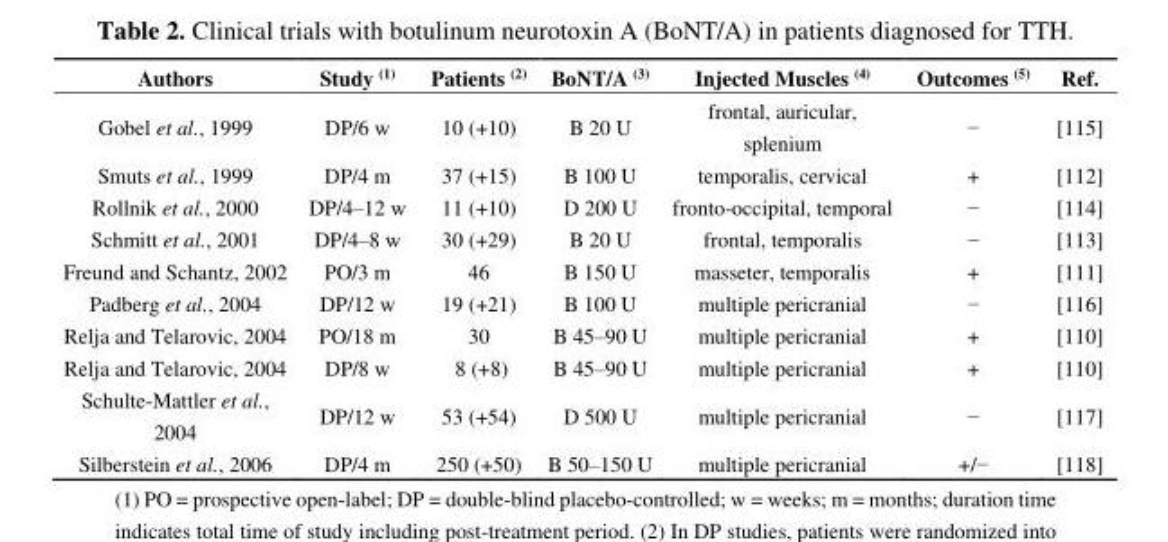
<table><thead><tr><td>Authors</td><td>Study <sup>(1)</sup></td><td>Patients <sup>(2)</sup></td><td>BoNT/A <sup>(3)</sup></td><td>Injected Muscles <sup>(4)</sup></td><td>Outcomes <sup>(5)</sup></td><td>Ref.</td></tr></thead><tbody><tr><td>Gobel et al., 1999</td><td>DP/6 w</td><td>10 (+10)</td><td>B 20 U</td><td>frontal, auricular, splenium</td><td>−</td><td>[115]</td></tr><tr><td>Smuts et al., 1999</td><td>DP/4 m</td><td>37 (+15)</td><td>B 100 U</td><td>temporalis, cervical</td><td>+</td><td>[112]</td></tr><tr><td>Rollnik et al., 2000</td><td>DP/4–12 w</td><td>11 (+10)</td><td>D 200 U</td><td>fronto-occipital, temporal</td><td>−</td><td>[114]</td></tr><tr><td>Schmitt et al., 2001</td><td>DP/4–8 w</td><td>30 (+29)</td><td>B 20 U</td><td>frontal, temporalis</td><td>−</td><td>[113]</td></tr><tr><td>Freund and Schantz, 2002</td><td>PO/3 m</td><td>46</td><td>B 150 U</td><td>masseter, temporalis</td><td>+</td><td>[111]</td></tr><tr><td>Padberg et al., 2004</td><td>DP/12 w</td><td>19 (+21)</td><td>B 100 U</td><td>multiple pericranial</td><td>−</td><td>[116]</td></tr><tr><td>Relja and Telarovic, 2004</td><td>PO/18 m</td><td>30</td><td>B 45–90 U</td><td>multiple pericranial</td><td>+</td><td>[110]</td></tr><tr><td>Relja and Telarovic, 2004</td><td>DP/8 w</td><td>8 (+8)</td><td>B 45–90 U</td><td>multiple pericranial</td><td>+</td><td>[110]</td></tr><tr><td>Schulte-Mattler et al., 2004</td><td>DP/12 w</td><td>53 (+54)</td><td>D 500 U</td><td>multiple pericranial</td><td>−</td><td>[117]</td></tr><tr><td>Silberstein et al., 2006</td><td>DP/4 m</td><td>250 (+50)</td><td>B 50–150 U</td><td>multiple pericranial</td><td>+/−</td><td>[118]</td></tr></tbody></table>